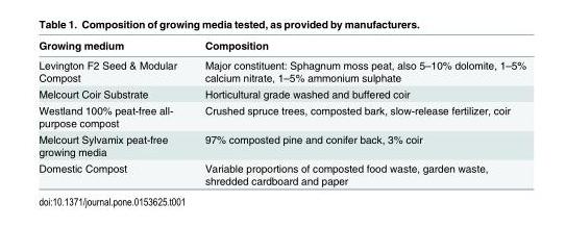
<table><thead><tr><td>Growing medium</td><td>Composition</td></tr></thead><tbody><tr><td>Levington F2 Seed &amp; Modular Compost</td><td>Major constituent: Sphagnum moss peat, also 5–10% dolomite, 1–5% calcium nitrate, 1–5% ammonium sulphate</td></tr><tr><td>Melcourt Coir Substrate</td><td>Horticultural grade washed and buffered coir</td></tr><tr><td>Westland 100% peat-free all- purpose compost</td><td>Crushed spruce trees, composted bark, slow-release fertilizer, coir</td></tr><tr><td>Melcourt Sylvamix peat-free growing media</td><td>97% composted pine and conifer back, 3% coir</td></tr><tr><td>Domestic Compost</td><td>Variable proportions of composted food waste, garden waste, shredded cardboard and paper</td></tr></tbody></table>